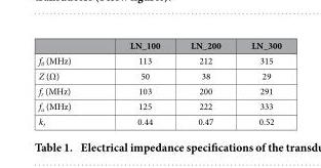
<table><thead><tr><td></td><td>LN_100</td><td>LN_200</td><td>LN_300</td></tr></thead><tbody><tr><td>f<sub>0</sub> (MHz)</td><td>113</td><td>212</td><td>315</td></tr><tr><td>Z (Ω)</td><td>50</td><td>38</td><td>29</td></tr><tr><td>f<sub>r</sub> (MHz)</td><td>103</td><td>200</td><td>291</td></tr><tr><td>f<sub>a</sub> (MHz)</td><td>125</td><td>222</td><td>333</td></tr><tr><td>k<sub>t</sub></td><td>0.44</td><td>0.47</td><td>0.52</td></tr></tbody></table>